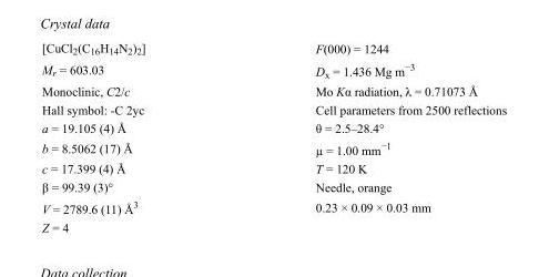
<table><tbody><tr><td>[CuCl<sub>2</sub>(C<sub>16</sub>H<sub>14</sub>N<sub>2</sub>)<sub>2</sub>]</td><td>F(000) = 1244</td></tr><tr><td>M<sub>r</sub> = 603.03</td><td>D<sub>x</sub> = 1.436 Mg m<sup>−3</sup></td></tr><tr><td>Monoclinic, C2/c</td><td>Mo Kα radiation, λ = 0.71073 Å</td></tr><tr><td>Hall symbol: -C 2yc</td><td>Cell parameters from 2500 reflections</td></tr><tr><td>a = 19.105 (4) Å</td><td>θ = 2.5–28.4°</td></tr><tr><td>b = 8.5062 (17) Å</td><td>µ = 1.00 mm<sup>−1</sup></td></tr><tr><td>c = 17.399 (4) Å</td><td>T = 120 K</td></tr><tr><td>β = 99.39 (3)°</td><td>Needle, orange</td></tr><tr><td>V = 2789.6 (11) Å<sup>3</sup></td><td>0.23 × 0.09 × 0.03 mm</td></tr><tr><td>Z = 4</td><td></td></tr></tbody></table>